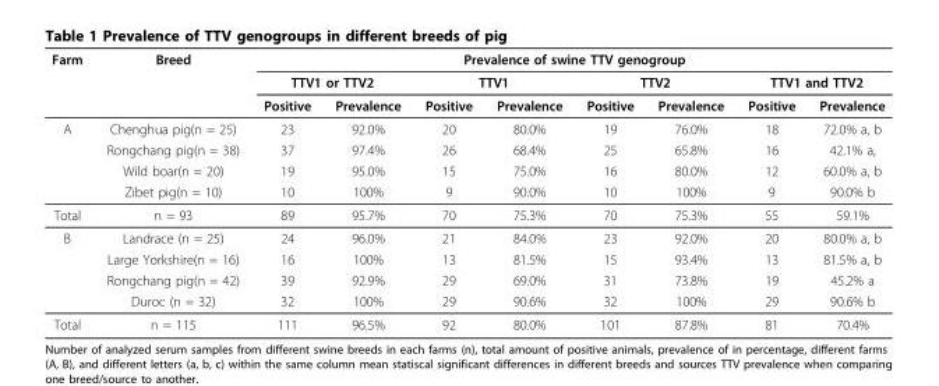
<table><thead><tr><td rowspan="3">Farm</td><td rowspan="3">Breed</td><td colspan="8">Prevalence of swine TTV genogroup</td></tr><tr><td colspan="2">TTV1 or TTV2</td><td colspan="2">TTV1</td><td colspan="2">TTV2</td><td colspan="2">TTV1 and TTV2</td></tr><tr><td>Positive</td><td>Prevalence</td><td>Positive</td><td>Prevalence</td><td>Positive</td><td>Prevalence</td><td>Positive</td><td>Prevalence</td></tr></thead><tbody><tr><td rowspan="4">A</td><td>Chenghua pig(n = 25)</td><td>23</td><td>92.0%</td><td>20</td><td>80.0%</td><td>19</td><td>76.0%</td><td>18</td><td>72.0% a, b</td></tr><tr><td>Rongchang pig(n = 38)</td><td>37</td><td>97.4%</td><td>26</td><td>68.4%</td><td>25</td><td>65.8%</td><td>16</td><td>42.1% a,</td></tr><tr><td>Wild boar(n = 20)</td><td>19</td><td>95.0%</td><td>15</td><td>75.0%</td><td>16</td><td>80.0%</td><td>12</td><td>60.0% a, b</td></tr><tr><td>Zibet pig(n = 10)</td><td>10</td><td>100%</td><td>9</td><td>90.0%</td><td>10</td><td>100%</td><td>9</td><td>90.0% b</td></tr><tr><td>Total</td><td>n = 93</td><td>89</td><td>95.7%</td><td>70</td><td>75.3%</td><td>70</td><td>75.3%</td><td>55</td><td>59.1%</td></tr><tr><td rowspan="4">B</td><td>Landrace (n = 25)</td><td>24</td><td>96.0%</td><td>21</td><td>84.0%</td><td>23</td><td>92.0%</td><td>20</td><td>80.0% a, b</td></tr><tr><td>Large Yorkshire(n = 16)</td><td>16</td><td>100%</td><td>13</td><td>81.5%</td><td>15</td><td>93.4%</td><td>13</td><td>81.5% a, b</td></tr><tr><td>Rongchang pig(n = 42)</td><td>39</td><td>92.9%</td><td>29</td><td>69.0%</td><td>31</td><td>73.8%</td><td>19</td><td>45.2% a</td></tr><tr><td>Duroc (n = 32)</td><td>32</td><td>100%</td><td>29</td><td>90.6%</td><td>32</td><td>100%</td><td>29</td><td>90.6% b</td></tr><tr><td>Total</td><td>n = 115</td><td>111</td><td>96.5%</td><td>92</td><td>80.0%</td><td>101</td><td>87.8%</td><td>81</td><td>70.4%</td></tr></tbody></table>